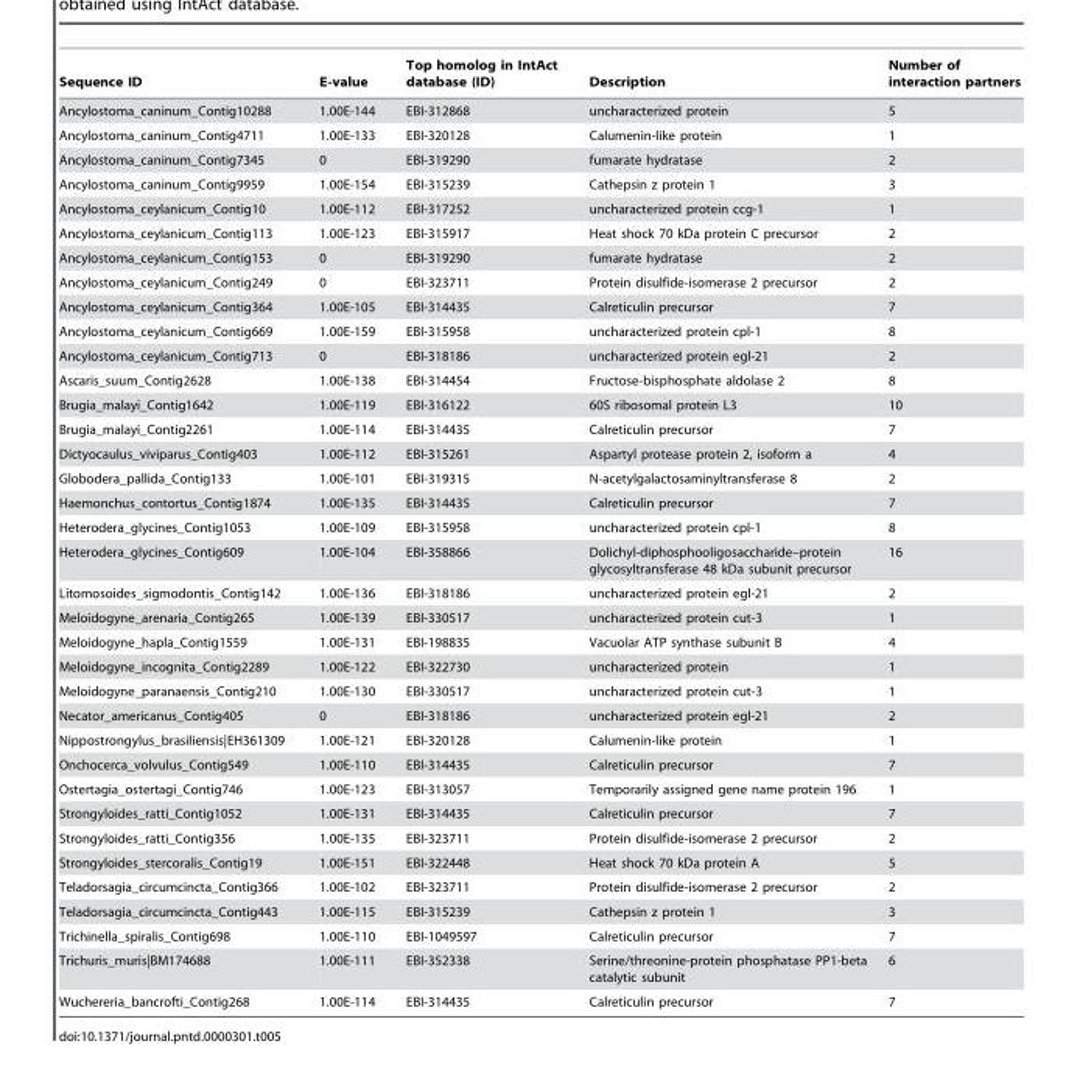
<table><thead><tr><td>Sequence ID</td><td>E-value</td><td>Top homolog in IntAct database (ID)</td><td>Description</td><td>Number of interaction partners</td></tr></thead><tbody><tr><td>Ancylostoma_caninum_Contig10288</td><td>1.00E-144</td><td>EBI-312868</td><td>uncharacterized protein</td><td>5</td></tr><tr><td>Ancylostoma_caninum_Contig4711</td><td>1.00E-133</td><td>EBI-320128</td><td>Calumenin-like protein</td><td>1</td></tr><tr><td>Ancylostoma_caninum_Contig7345</td><td>0</td><td>EBI-319290</td><td>fumarate hydratase</td><td>2</td></tr><tr><td>Ancylostoma_caninum_Contig9959</td><td>1.00E-154</td><td>EBI-315239</td><td>Cathepsin z protein 1</td><td>3</td></tr><tr><td>Ancylostoma_ceylanicum_Contig10</td><td>1.00E-112</td><td>EBI-317252</td><td>uncharacterized protein ccg-1</td><td>1</td></tr><tr><td>Ancylostoma_ceylanicum_Contig113</td><td>1.00E-123</td><td>EBI-315917</td><td>Heat shock 70 kDa protein C precursor</td><td>2</td></tr><tr><td>Ancylostoma_ceylanicum_Contig153</td><td>0</td><td>EBI-319290</td><td>fumarate hydratase</td><td>2</td></tr><tr><td>Ancylostoma_ceylanicum_Contig249</td><td>0</td><td>EBI-323711</td><td>Protein disulfide-isomerase 2 precursor</td><td>2</td></tr><tr><td>Ancylostoma_ceylanicum_Contig364</td><td>1.00E-105</td><td>EBI-314435</td><td>Calreticulin precursor</td><td>7</td></tr><tr><td>Ancylostoma_ceylanicum_Contig669</td><td>1.00E-159</td><td>EBI-315958</td><td>uncharacterized protein cpl-1</td><td>8</td></tr><tr><td>Ancylostoma_ceylanicum_Contig713</td><td>0</td><td>EBI-318186</td><td>uncharacterized protein egl-21</td><td>2</td></tr><tr><td>Ascaris_suum_Contig2628</td><td>1.00E-138</td><td>EBI-314454</td><td>Fructose-bisphosphate aldolase 2</td><td>8</td></tr><tr><td>Brugia_malayi_Contig1642</td><td>1.00E-119</td><td>EBI-316122</td><td>60S ribosomal protein L3</td><td>10</td></tr><tr><td>Brugia_malayi_Contig2261</td><td>1.00E-114</td><td>EBI-314435</td><td>Calreticulin precursor</td><td>7</td></tr><tr><td>Dictyocaulus_viviparus_Contig403</td><td>1.00E-112</td><td>EBI-315261</td><td>Aspartyl protease protein 2, isoform a</td><td>4</td></tr><tr><td>Globodera_pallida_Contig133</td><td>1.00E-101</td><td>EBI-319315</td><td>N-acetylgalactosaminyltransferase 8</td><td>2</td></tr><tr><td>Haemonchus_contortus_Contig1874</td><td>1.00E-135</td><td>EBI-314435</td><td>Calreticulin precursor</td><td>7</td></tr><tr><td>Heterodera_glycines_Contig1053</td><td>1.00E-109</td><td>EBI-315958</td><td>uncharacterized protein cpl-1</td><td>8</td></tr><tr><td>Heterodera_glycines_Contig609</td><td>1.00E-104</td><td>EBI-358866</td><td>Dolichyl-diphosphooligosaccharide–protein glycosyltransferase 48 kDa subunit precursor</td><td>16</td></tr><tr><td>Litomosoides_sigmodontis_Contig142</td><td>1.00E-136</td><td>EBI-318186</td><td>uncharacterized protein egl-21</td><td>2</td></tr><tr><td>Meloidogyne_arenaria_Contig265</td><td>1.00E-139</td><td>EBI-330517</td><td>uncharacterized protein cut-3</td><td>1</td></tr><tr><td>Meloidogyne_hapla_Contig1559</td><td>1.00E-131</td><td>EBI-198835</td><td>Vacuolar ATP synthase subunit B</td><td>4</td></tr><tr><td>Meloidogyne_incognita_Contig2289</td><td>1.00E-122</td><td>EBI-322730</td><td>uncharacterized protein</td><td>1</td></tr><tr><td>Meloidogyne_paranaensis_Contig210</td><td>1.00E-130</td><td>EBI-330517</td><td>uncharacterized protein cut-3</td><td>1</td></tr><tr><td>Necator_americanus_Contig405</td><td>0</td><td>EBI-318186</td><td>uncharacterized protein egl-21</td><td>2</td></tr><tr><td>Nippostrongylus_brasiliensis|EH361309</td><td>1.00E-121</td><td>EBI-320128</td><td>Calumenin-like protein</td><td>1</td></tr><tr><td>Onchocerca_volvulus_Contig549</td><td>1.00E-110</td><td>EBI-314435</td><td>Calreticulin precursor</td><td>7</td></tr><tr><td>Ostertagia_ostertagi_Contig746</td><td>1.00E-123</td><td>EBI-313057</td><td>Temporarily assigned gene name protein 196</td><td>1</td></tr><tr><td>Strongyloides_ratti_Contig1052</td><td>1.00E-131</td><td>EBI-314435</td><td>Calreticulin precursor</td><td>7</td></tr><tr><td>Strongyloides_ratti_Contig356</td><td>1.00E-135</td><td>EBI-323711</td><td>Protein disulfide-isomerase 2 precursor</td><td>2</td></tr><tr><td>Strongyloides_stercoralis_Contig19</td><td>1.00E-151</td><td>EBI-322448</td><td>Heat shock 70 kDa protein A</td><td>5</td></tr><tr><td>Teladorsagia_circumcincta_Contig366</td><td>1.00E-102</td><td>EBI-323711</td><td>Protein disulfide-isomerase 2 precursor</td><td>2</td></tr><tr><td>Teladorsagia_circumcincta_Contig443</td><td>1.00E-115</td><td>EBI-315239</td><td>Cathepsin z protein 1</td><td>3</td></tr><tr><td>Trichinella_spiralis_Contig698</td><td>1.00E-110</td><td>EBI-1049597</td><td>Calreticulin precursor</td><td>7</td></tr><tr><td>Trichuris_muris|BM174688</td><td>1.00E-111</td><td>EBI-352338</td><td>Serine/threonine-protein phosphatase PP1-beta catalytic subunit</td><td>6</td></tr><tr><td>Wuchereria_bancrofti_Contig268</td><td>1.00E-114</td><td>EBI-314435</td><td>Calreticulin precursor</td><td>7</td></tr></tbody></table>